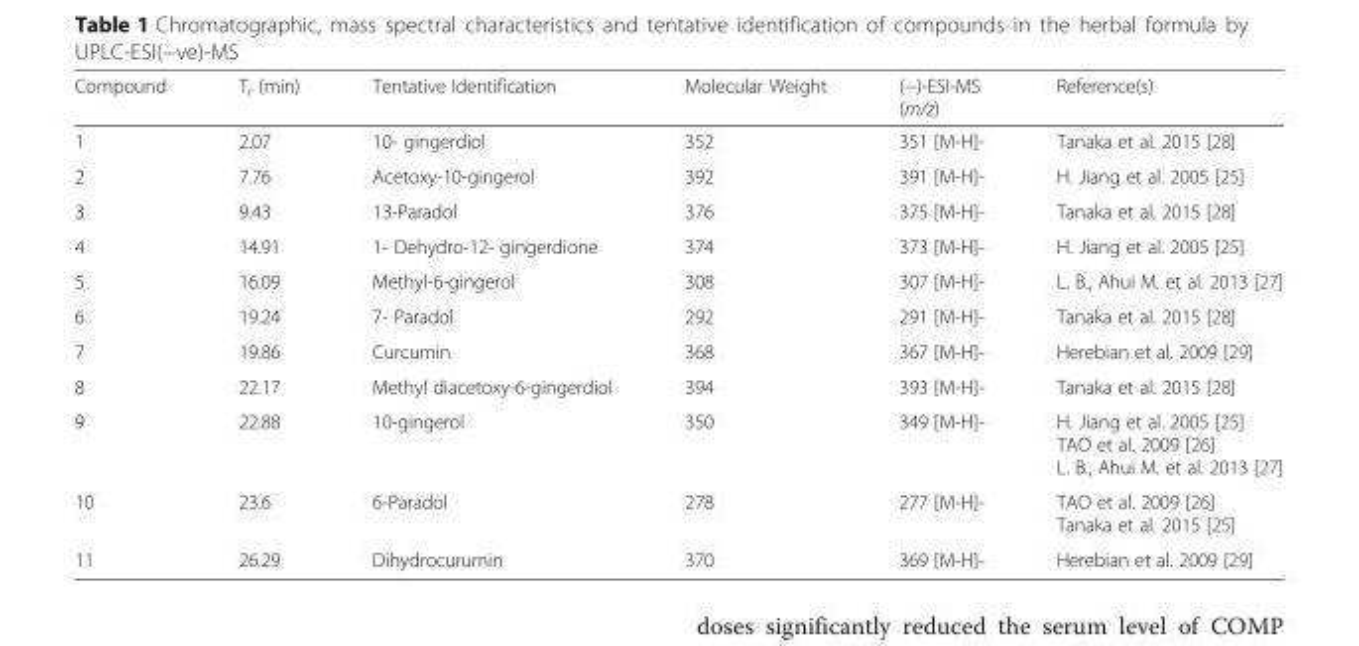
<table><thead><tr><td>Compound</td><td>T<sub>r</sub> (min)</td><td>Tentative Identification</td><td>Molecular Weight</td><td>(−)-ESI-MS (m/z)</td><td>Reference(s)</td></tr></thead><tbody><tr><td>1</td><td>2.07</td><td>10- gingerdiol</td><td>352</td><td>351 [M-H]-</td><td>Tanaka et al. 2015 [28]</td></tr><tr><td>2</td><td>7.76</td><td>Acetoxy-10-gingerol</td><td>392</td><td>391 [M-H]-</td><td>H. Jiang et al. 2005 [25]</td></tr><tr><td>3</td><td>9.43</td><td>13-Paradol</td><td>376</td><td>375 [M-H]-</td><td>Tanaka et al. 2015 [28]</td></tr><tr><td>4</td><td>14.91</td><td>1- Dehydro-12- gingerdione</td><td>374</td><td>373 [M-H]-</td><td>H. Jiang et al. 2005 [25]</td></tr><tr><td>5</td><td>16.09</td><td>Methyl-6-gingerol</td><td>308</td><td>307 [M-H]-</td><td>L. B., Ahui M. et al. 2013 [27]</td></tr><tr><td>6</td><td>19.24</td><td>7- Paradol</td><td>292</td><td>291 [M-H]-</td><td>Tanaka et al. 2015 [28]</td></tr><tr><td>7</td><td>19.86</td><td>Curcumin</td><td>368</td><td>367 [M-H]-</td><td>Herebian et al. 2009 [29]</td></tr><tr><td>8</td><td>22.17</td><td>Methyl diacetoxy-6-gingerdiol</td><td>394</td><td>393 [M-H]-</td><td>Tanaka et al. 2015 [28]</td></tr><tr><td>9</td><td>22.88</td><td>10-gingerol</td><td>350</td><td>349 [M-H]-</td><td>H. Jiang et al. 2005 [25] TAO et al. 2009 [26] L. B., Ahui M. et al. 2013 [27]</td></tr><tr><td>10</td><td>23.6</td><td>6-Paradol</td><td>278</td><td>277 [M-H]-</td><td>TAO et al. 2009 [26] Tanaka et al. 2015 [25]</td></tr><tr><td>11</td><td>26.29</td><td>Dihydrocurumin</td><td>370</td><td>369 [M-H]-</td><td>Herebian et al. 2009 [29]</td></tr></tbody></table>